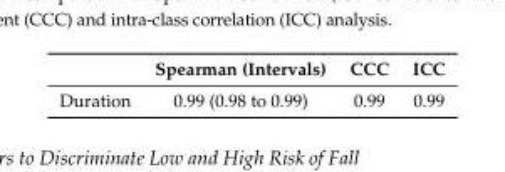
<table><thead><tr><td></td><td>Spearman (Intervals)</td><td>CCC</td><td>ICC</td></tr></thead><tbody><tr><td>Duration</td><td>0.99 (0.98 to 0.99)</td><td>0.99</td><td>0.99</td></tr></tbody></table>